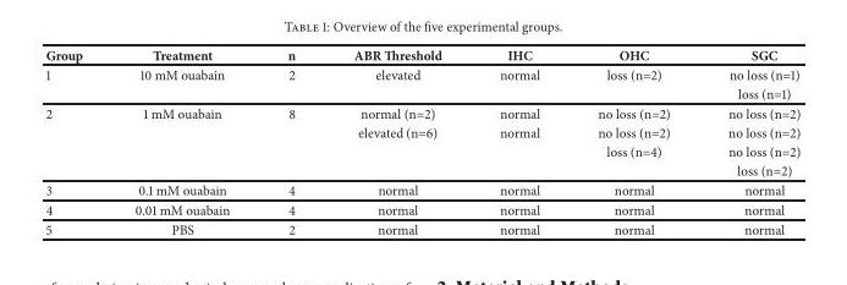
<table><thead><tr><td>Group</td><td>Treatment</td><td>n</td><td>ABR Threshold</td><td>IHC</td><td>OHC</td><td>SGC</td></tr></thead><tbody><tr><td rowspan="2">1</td><td>10 mM ouabain</td><td>2</td><td>elevated</td><td>normal</td><td>loss (n=2)</td><td>no loss (n=1)</td></tr><tr><td></td><td></td><td></td><td></td><td></td><td>loss (n=1)</td></tr><tr><td rowspan="4">2</td><td>1 mM ouabain</td><td>8</td><td>normal (n=2)</td><td>normal</td><td>no loss (n=2)</td><td>no loss (n=2)</td></tr><tr><td></td><td></td><td>elevated (n=6)</td><td>normal</td><td>no loss (n=2)</td><td>no loss (n=2)</td></tr><tr><td></td><td></td><td></td><td></td><td>loss (n=4)</td><td>no loss (n=2)</td></tr><tr><td></td><td></td><td></td><td></td><td></td><td>loss (n=2)</td></tr><tr><td>3</td><td>0.1 mM ouabain</td><td>4</td><td>normal</td><td>normal</td><td>normal</td><td>normal</td></tr><tr><td>4</td><td>0.01 mM ouabain</td><td>4</td><td>normal</td><td>normal</td><td>normal</td><td>normal</td></tr><tr><td>5</td><td>PBS</td><td>2</td><td>normal</td><td>normal</td><td>normal</td><td>normal</td></tr></tbody></table>